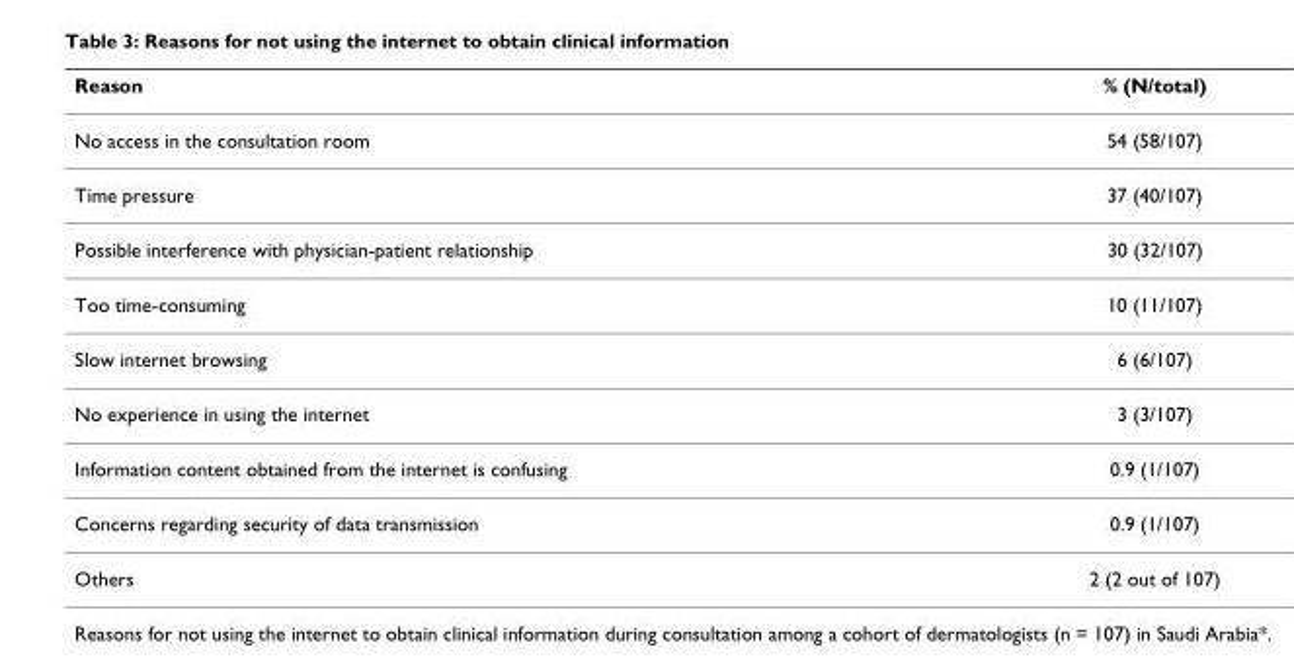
<table><thead><tr><td>Reason</td><td>% (N/total)</td></tr></thead><tbody><tr><td>No access in the consultation room</td><td>54 (58/107)</td></tr><tr><td>Time pressure</td><td>37 (40/107)</td></tr><tr><td>Possible interference with physician-patient relationship</td><td>30 (32/107)</td></tr><tr><td>Too time-consuming</td><td>10 (11/107)</td></tr><tr><td>Slow internet browsing</td><td>6 (6/107)</td></tr><tr><td>No experience in using the internet</td><td>3 (3/107)</td></tr><tr><td>Information content obtained from the internet is confusing</td><td>0.9 (1/107)</td></tr><tr><td>Concerns regarding security of data transmission</td><td>0.9 (1/107)</td></tr><tr><td>Others</td><td>2 (2 out of 107)</td></tr></tbody></table>